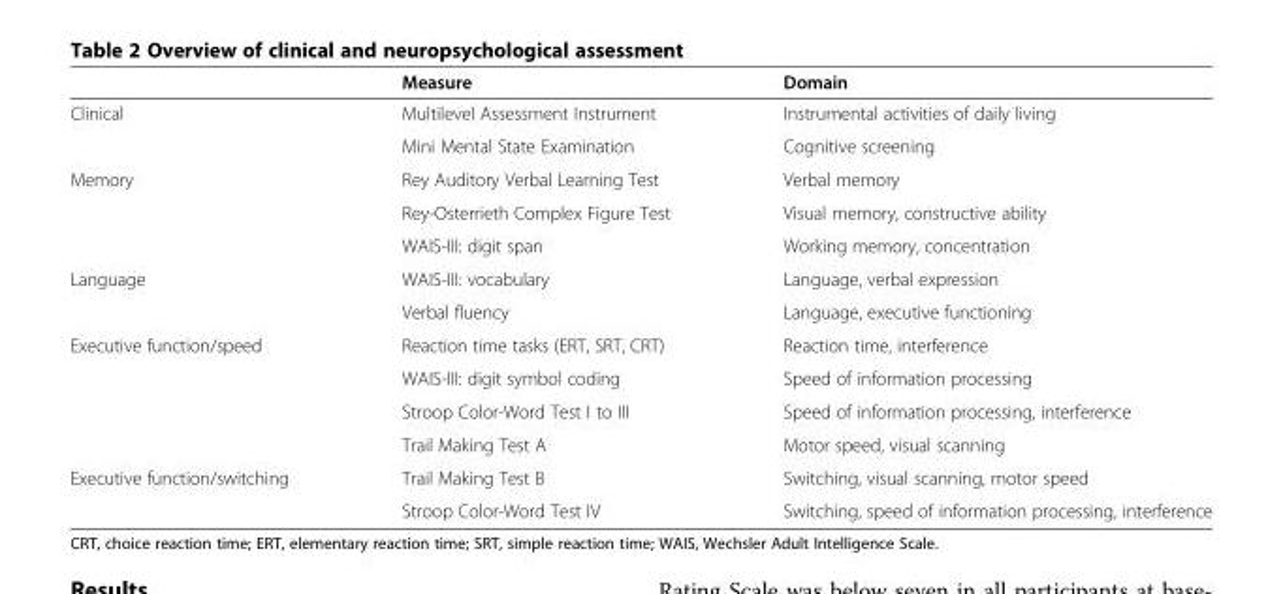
<table><thead><tr><td></td><td>Measure</td><td>Domain</td></tr></thead><tbody><tr><td rowspan="2">Clinical</td><td>Multilevel Assessment Instrument</td><td>Instrumental activities of daily living</td></tr><tr><td>Mini Mental State Examination</td><td>Cognitive screening</td></tr><tr><td rowspan="3">Memory</td><td>Rey Auditory Verbal Learning Test</td><td>Verbal memory</td></tr><tr><td>Rey-Osterrieth Complex Figure Test</td><td>Visual memory, constructive ability</td></tr><tr><td>WAIS-III: digit span</td><td>Working memory, concentration</td></tr><tr><td rowspan="2">Language</td><td>WAIS-III: vocabulary</td><td>Language, verbal expression</td></tr><tr><td>Verbal fluency</td><td>Language, executive functioning</td></tr><tr><td rowspan="4">Executive function/speed</td><td>Reaction time tasks (ERT, SRT, CRT)</td><td>Reaction time, interference</td></tr><tr><td>WAIS-III: digit symbol coding</td><td>Speed of information processing</td></tr><tr><td>Stroop Color-Word Test I to III</td><td>Speed of information processing, interference</td></tr><tr><td>Trail Making Test A</td><td>Motor speed, visual scanning</td></tr><tr><td rowspan="2">Executive function/switching</td><td>Trail Making Test B</td><td>Switching, visual scanning, motor speed</td></tr><tr><td>Stroop Color-Word Test IV</td><td>Switching, speed of information processing, interference</td></tr></tbody></table>